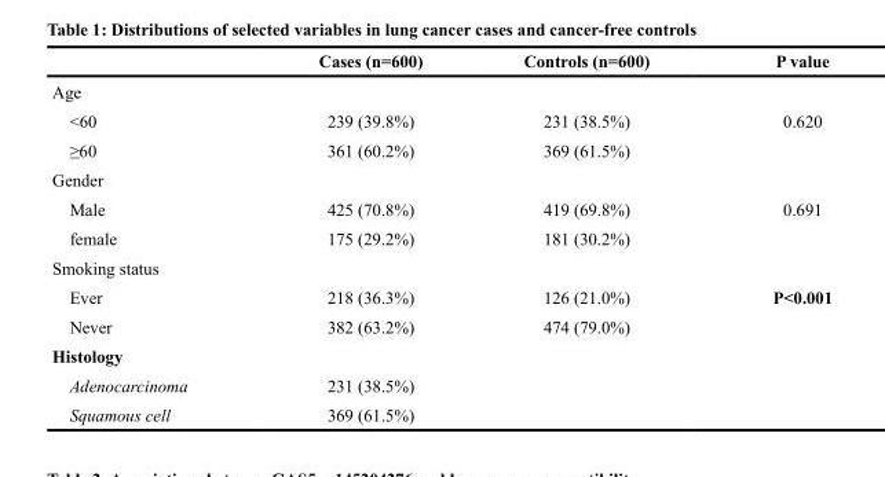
<table><thead><tr><td></td><td>Cases (n=600)</td><td>Controls (n=600)</td><td>P value</td></tr></thead><tbody><tr><td colspan="4">Age</td></tr><tr><td>&lt;60</td><td>239 (39.8%)</td><td>231 (38.5%)</td><td>0.620</td></tr><tr><td>≥60</td><td>361 (60.2%)</td><td>369 (61.5%)</td><td></td></tr><tr><td colspan="4">Gender</td></tr><tr><td>Male</td><td>425 (70.8%)</td><td>419 (69.8%)</td><td>0.691</td></tr><tr><td>female</td><td>175 (29.2%)</td><td>181 (30.2%)</td><td></td></tr><tr><td colspan="4">Smoking status</td></tr><tr><td>Ever</td><td>218 (36.3%)</td><td>126 (21.0%)</td><td>P&lt;0.001</td></tr><tr><td>Never</td><td>382 (63.2%)</td><td>474 (79.0%)</td><td></td></tr><tr><td colspan="4">Histology</td></tr><tr><td>Adenocarcinoma</td><td>231 (38.5%)</td><td></td><td></td></tr><tr><td>Squamous cell</td><td>369 (61.5%)</td><td></td><td></td></tr></tbody></table>